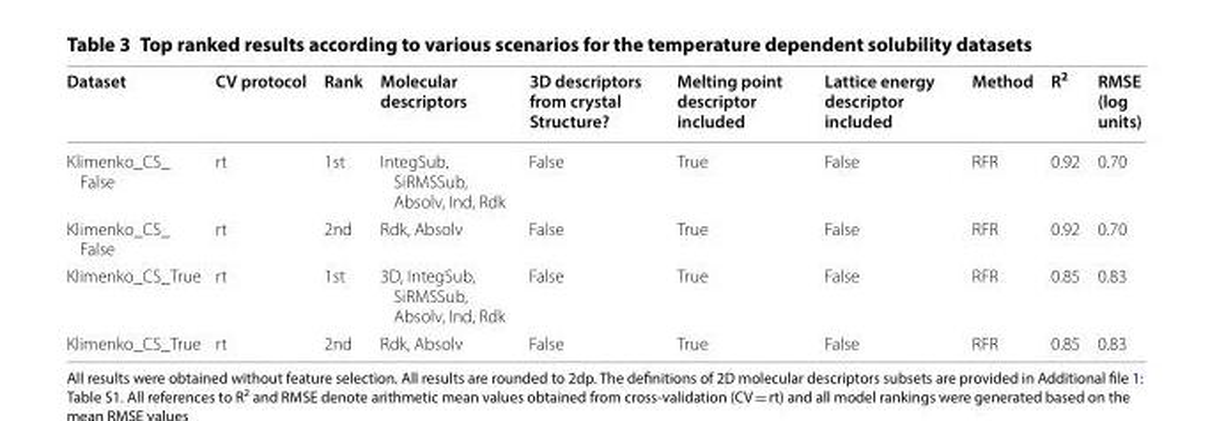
<table><thead><tr><td>Dataset</td><td>CV protocol</td><td>Rank</td><td>Molecular descriptors</td><td>3D descriptors from crystal Structure?</td><td>Melting point descriptor included</td><td>Lattice energy descriptor included</td><td>Method</td><td>R<sup>2</sup></td><td>RMSE (log units)</td></tr></thead><tbody><tr><td>Klimenko_CS_ False</td><td>rt</td><td>1st</td><td>IntegSub, SiRMSSub, Absolv, Ind, Rdk</td><td>False</td><td>True</td><td>False</td><td>RFR</td><td>0.92</td><td>0.70</td></tr><tr><td>Klimenko_CS_ False</td><td>rt</td><td>2nd</td><td>Rdk, Absolv</td><td>False</td><td>True</td><td>False</td><td>RFR</td><td>0.92</td><td>0.70</td></tr><tr><td>Klimenko_CS_True</td><td>rt</td><td>1st</td><td>3D, IntegSub, SiRMSSub, Absolv, Ind, Rdk</td><td>False</td><td>True</td><td>False</td><td>RFR</td><td>0.85</td><td>0.83</td></tr><tr><td>Klimenko_CS_True</td><td>rt</td><td>2nd</td><td>Rdk, Absolv</td><td>False</td><td>True</td><td>False</td><td>RFR</td><td>0.85</td><td>0.83</td></tr></tbody></table>